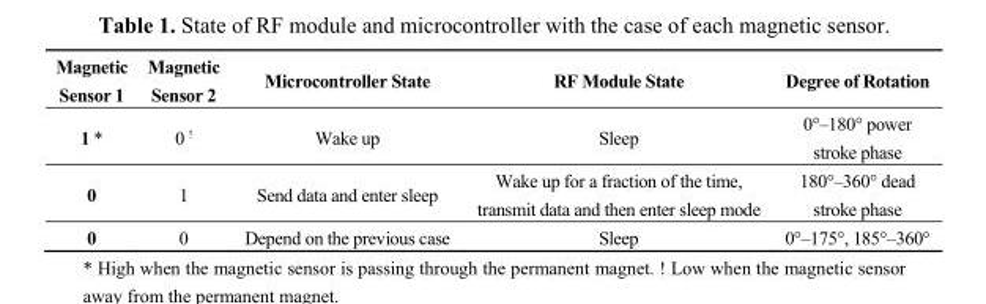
<table><thead><tr><td>Magnetic Sensor 1</td><td>Magnetic Sensor 2</td><td>Microcontroller State</td><td>RF Module State</td><td>Degree of Rotation</td></tr></thead><tbody><tr><td>1 *</td><td>0 <sup>!</sup></td><td>Wake up</td><td>Sleep</td><td>0°–180° power stroke phase</td></tr><tr><td>0</td><td>1</td><td>Send data and enter sleep</td><td>Wake up for a fraction of the time, transmit data and then enter sleep mode</td><td>180°–360° dead stroke phase</td></tr><tr><td>0</td><td>0</td><td>Depend on the previous case</td><td>Sleep</td><td>0°–175°, 185°–360°</td></tr></tbody></table>